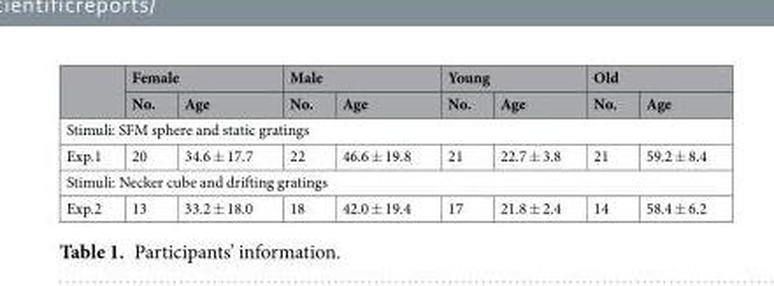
<table><thead><tr><td rowspan="2"></td><td colspan="2">Female</td><td colspan="2">Male</td><td colspan="2">Young</td><td colspan="2">Old</td></tr><tr><td>No.</td><td>Age</td><td>No.</td><td>Age</td><td>No.</td><td>Age</td><td>No.</td><td>Age</td></tr></thead><tbody><tr><td colspan="9">Stimuli: SFM sphere and static gratings</td></tr><tr><td>Exp.1</td><td>20</td><td>34.6 ± 17.7</td><td>22</td><td>46.6 ± 19.8</td><td>21</td><td>22.7 ± 3.8</td><td>21</td><td>59.2 ± 8.4</td></tr><tr><td colspan="9">Stimuli: Necker cube and drifting gratings</td></tr><tr><td>Exp.2</td><td>13</td><td>33.2 ± 18.0</td><td>18</td><td>42.0 ± 19.4</td><td>17</td><td>21.8 ± 2.4</td><td>14</td><td>58.4 ± 6.2</td></tr></tbody></table>